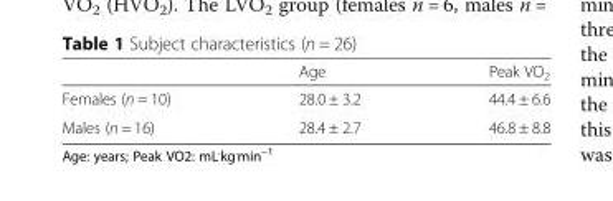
<table><thead><tr><td></td><td>Age</td><td>Peak VO<sub>2</sub></td></tr></thead><tbody><tr><td>Females (n = 10)</td><td>28.0 ± 3.2</td><td>44.4 ± 6.6</td></tr><tr><td>Males (n = 16)</td><td>28.4 ± 2.7</td><td>46.8 ± 8.8</td></tr></tbody></table>